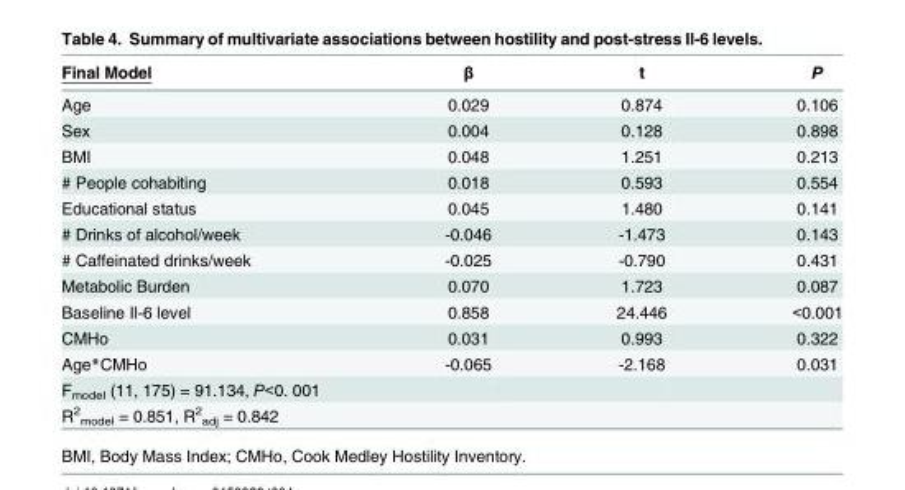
<table><thead><tr><td>Final Model</td><td>β</td><td>t</td><td>P</td></tr></thead><tbody><tr><td>Age</td><td>0.029</td><td>0.874</td><td>0.106</td></tr><tr><td>Sex</td><td>0.004</td><td>0.128</td><td>0.898</td></tr><tr><td>BMI</td><td>0.048</td><td>1.251</td><td>0.213</td></tr><tr><td># People cohabiting</td><td>0.018</td><td>0.593</td><td>0.554</td></tr><tr><td>Educational status</td><td>0.045</td><td>1.480</td><td>0.141</td></tr><tr><td># Drinks of alcohol/week</td><td>-0.046</td><td>-1.473</td><td>0.143</td></tr><tr><td># Caffeinated drinks/week</td><td>-0.025</td><td>-0.790</td><td>0.431</td></tr><tr><td>Metabolic Burden</td><td>0.070</td><td>1.723</td><td>0.087</td></tr><tr><td>Baseline Il-6 level</td><td>0.858</td><td>24.446</td><td>&lt;0.001</td></tr><tr><td>CMHo</td><td>0.031</td><td>0.993</td><td>0.322</td></tr><tr><td>Age*CMHo</td><td>-0.065</td><td>-2.168</td><td>0.031</td></tr><tr><td colspan="4">F<sub>model</sub> (11, 175) = 91.134, P&lt;0. 001</td></tr><tr><td>R<sup>2</sup> <sub>model</sub> = 0.851, R<sup>2</sup> <sub>adj</sub> = 0.842</td><td></td><td></td><td></td></tr></tbody></table>